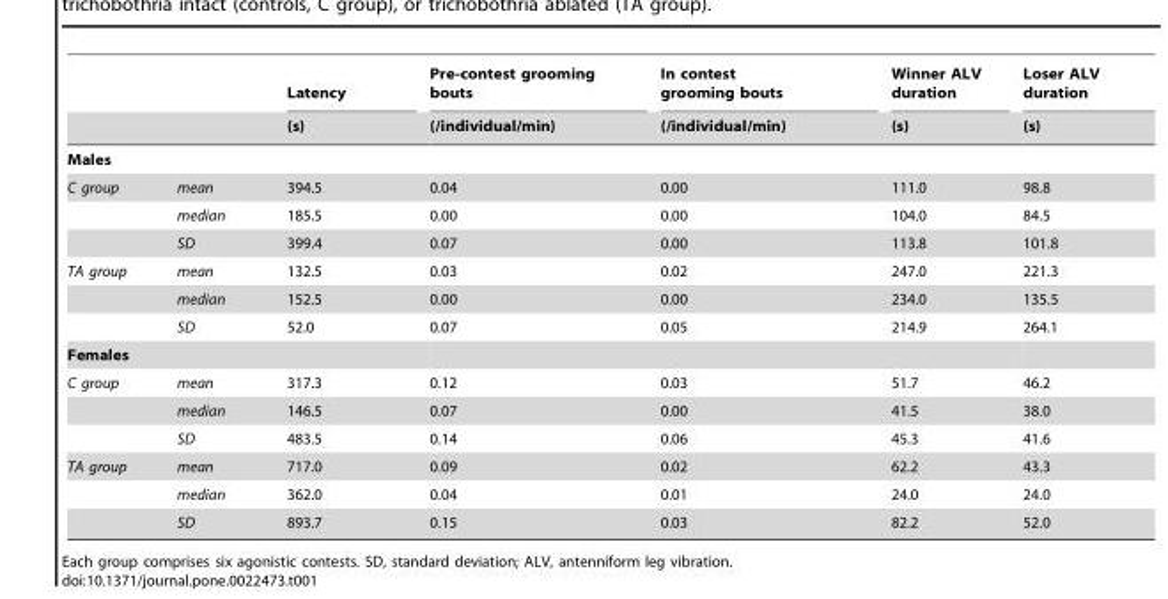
<table><thead><tr><td rowspan="2"></td><td rowspan="2"></td><td rowspan="2">Latency (s)</td><td rowspan="2">Pre-contest grooming bouts (/individual/min)</td><td rowspan="2">In contest grooming bouts (/individual/min)</td><td rowspan="2">Winner ALV duration (s)</td><td rowspan="2">Loser ALV duration (s)</td></tr><tr></tr></thead><tbody><tr><td colspan="7">Males</td></tr><tr><td rowspan="3">C group</td><td>mean</td><td>394.5</td><td>0.04</td><td>0.00</td><td>111.0</td><td>98.8</td></tr><tr><td>median</td><td>185.5</td><td>0.00</td><td>0.00</td><td>104.0</td><td>84.5</td></tr><tr><td>SD</td><td>399.4</td><td>0.07</td><td>0.00</td><td>113.8</td><td>101.8</td></tr><tr><td rowspan="3">TA group</td><td>mean</td><td>132.5</td><td>0.03</td><td>0.02</td><td>247.0</td><td>221.3</td></tr><tr><td>median</td><td>152.5</td><td>0.00</td><td>0.00</td><td>234.0</td><td>135.5</td></tr><tr><td>SD</td><td>52.0</td><td>0.07</td><td>0.05</td><td>214.9</td><td>264.1</td></tr><tr><td colspan="7">Females</td></tr><tr><td rowspan="3">C group</td><td>mean</td><td>317.3</td><td>0.12</td><td>0.03</td><td>51.7</td><td>46.2</td></tr><tr><td>median</td><td>146.5</td><td>0.07</td><td>0.00</td><td>41.5</td><td>38.0</td></tr><tr><td>SD</td><td>483.5</td><td>0.14</td><td>0.06</td><td>45.3</td><td>41.6</td></tr><tr><td rowspan="3">TA group</td><td>mean</td><td>717.0</td><td>0.09</td><td>0.02</td><td>62.2</td><td>43.3</td></tr><tr><td>median</td><td>362.0</td><td>0.04</td><td>0.01</td><td>24.0</td><td>24.0</td></tr><tr><td>SD</td><td>893.7</td><td>0.15</td><td>0.03</td><td>82.2</td><td>52.0</td></tr></tbody></table>